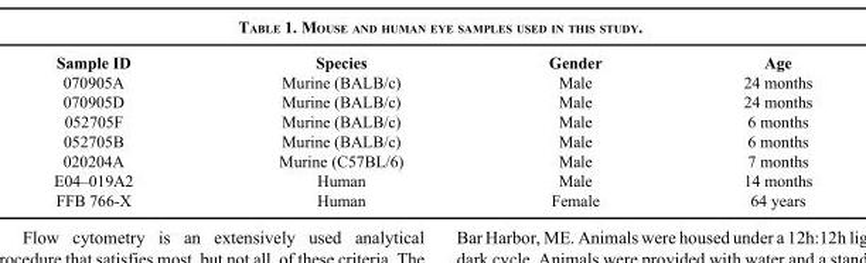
<table><thead><tr><td>Sample ID</td><td>Species</td><td>Gender</td><td>Age</td></tr></thead><tbody><tr><td>070905A</td><td>Murine (BALB/c)</td><td>Male</td><td>24 months</td></tr><tr><td>070905D</td><td>Murine (BALB/c)</td><td>Male</td><td>24 months</td></tr><tr><td>052705F</td><td>Murine (BALB/c)</td><td>Male</td><td>6 months</td></tr><tr><td>052705B</td><td>Murine (BALB/c)</td><td>Male</td><td>6 months</td></tr><tr><td>020204A</td><td>Murine (C57BL/6)</td><td>Male</td><td>7 months</td></tr><tr><td>E04–019A2</td><td>Human</td><td>Male</td><td>14 months</td></tr><tr><td>FFB 766-X</td><td>Human</td><td>Female</td><td>64 years</td></tr></tbody></table>